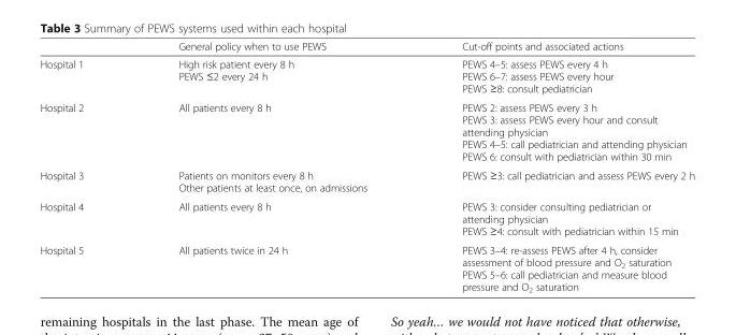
<table><thead><tr><td></td><td>General policy when to use PEWS</td><td>Cut-off points and associated actions</td></tr></thead><tbody><tr><td>Hospital 1</td><td>High risk patient every 8 h PEWS ≤2 every 24 h</td><td>PEWS 4–5: assess PEWS every 4 h PEWS 6–7: assess PEWS every hour PEWS ≥8: consult pediatrician</td></tr><tr><td>Hospital 2</td><td>All patients every 8 h</td><td>PEWS 2: assess PEWS every 3 h PEWS 3: assess PEWS every hour and consult attending physician PEWS 4–5: call pediatrician and attending physician PEWS 6: consult with pediatrician within 30 min</td></tr><tr><td>Hospital 3</td><td>Patients on monitors every 8 h Other patients at least once, on admissions</td><td>PEWS ≥3: call pediatrician and assess PEWS every 2 h</td></tr><tr><td>Hospital 4</td><td>All patients every 8 h</td><td>PEWS 3: consider consulting pediatrician or attending physician PEWS ≥4: consult with pediatrician within 15 min</td></tr><tr><td>Hospital 5</td><td>All patients twice in 24 h</td><td>PEWS 3–4: re-assess PEWS after 4 h, consider assessment of blood pressure and O<sub>2</sub> saturation PEWS 5–6: call pediatrician and measure blood pressure and O<sub>2</sub> saturation</td></tr></tbody></table>